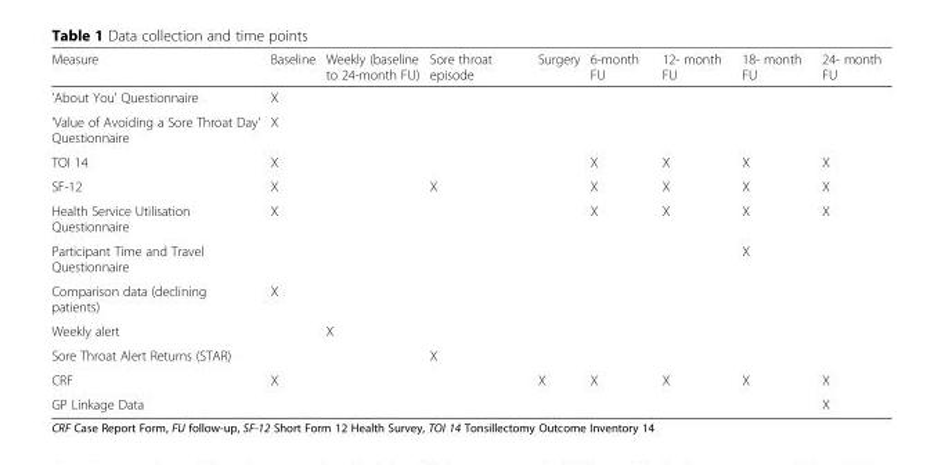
<table><thead><tr><td>Measure</td><td>Baseline</td><td>Weekly (baseline to 24-month FU)</td><td>Sore throat episode</td><td>Surgery</td><td>6-month FU</td><td>12- month FU</td><td>18- month FU</td><td>24- month FU</td></tr></thead><tbody><tr><td>&#x27;About You&#x27; Questionnaire</td><td>X</td><td></td><td></td><td></td><td></td><td></td><td></td><td></td></tr><tr><td>&#x27;Value of Avoiding a Sore Throat Day&#x27; Questionnaire</td><td>X</td><td></td><td></td><td></td><td></td><td></td><td></td><td></td></tr><tr><td>TOI 14</td><td>X</td><td></td><td></td><td></td><td>X</td><td>X</td><td>X</td><td>X</td></tr><tr><td>SF-12</td><td>X</td><td></td><td>X</td><td></td><td>X</td><td>X</td><td>X</td><td>X</td></tr><tr><td>Health Service Utilisation Questionnaire</td><td>X</td><td></td><td></td><td></td><td>X</td><td>X</td><td>X</td><td>X</td></tr><tr><td>Participant Time and Travel Questionnaire</td><td></td><td></td><td></td><td></td><td></td><td></td><td>X</td><td></td></tr><tr><td>Comparison data (declining patients)</td><td>X</td><td></td><td></td><td></td><td></td><td></td><td></td><td></td></tr><tr><td>Weekly alert</td><td></td><td>X</td><td></td><td></td><td></td><td></td><td></td><td></td></tr><tr><td>Sore Throat Alert Returns (STAR)</td><td></td><td></td><td>X</td><td></td><td></td><td></td><td></td><td></td></tr><tr><td>CRF</td><td>X</td><td></td><td></td><td>X</td><td>X</td><td>X</td><td>X</td><td>X</td></tr><tr><td>GP Linkage Data</td><td></td><td></td><td></td><td></td><td></td><td></td><td></td><td>X</td></tr></tbody></table>